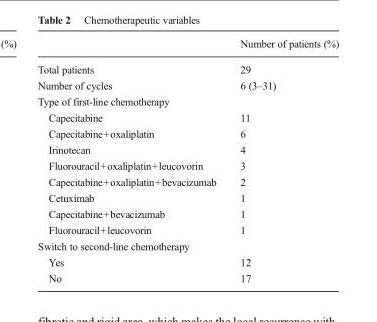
<table><thead><tr><td></td><td>Number of patients (%)</td></tr></thead><tbody><tr><td>Total patients</td><td>29</td></tr><tr><td>Number of cycles</td><td>6 (3–31)</td></tr><tr><td colspan="2">Type of first-line chemotherapy</td></tr><tr><td>Capecitabine</td><td>11</td></tr><tr><td>Capecitabine+oxaliplatin</td><td>6</td></tr><tr><td>Irinotecan</td><td>4</td></tr><tr><td>Fluorouracil+oxaliplatin+leucovorin</td><td>3</td></tr><tr><td>Capecitabine+oxaliplatin+bevacizumab</td><td>2</td></tr><tr><td>Cetuximab</td><td>1</td></tr><tr><td>Capecitabine+bevacizumab</td><td>1</td></tr><tr><td>Fluorouracil+leucovorin</td><td>1</td></tr><tr><td colspan="2">Switch to second-line chemotherapy</td></tr><tr><td>Yes</td><td>12</td></tr><tr><td>No</td><td>17</td></tr></tbody></table>